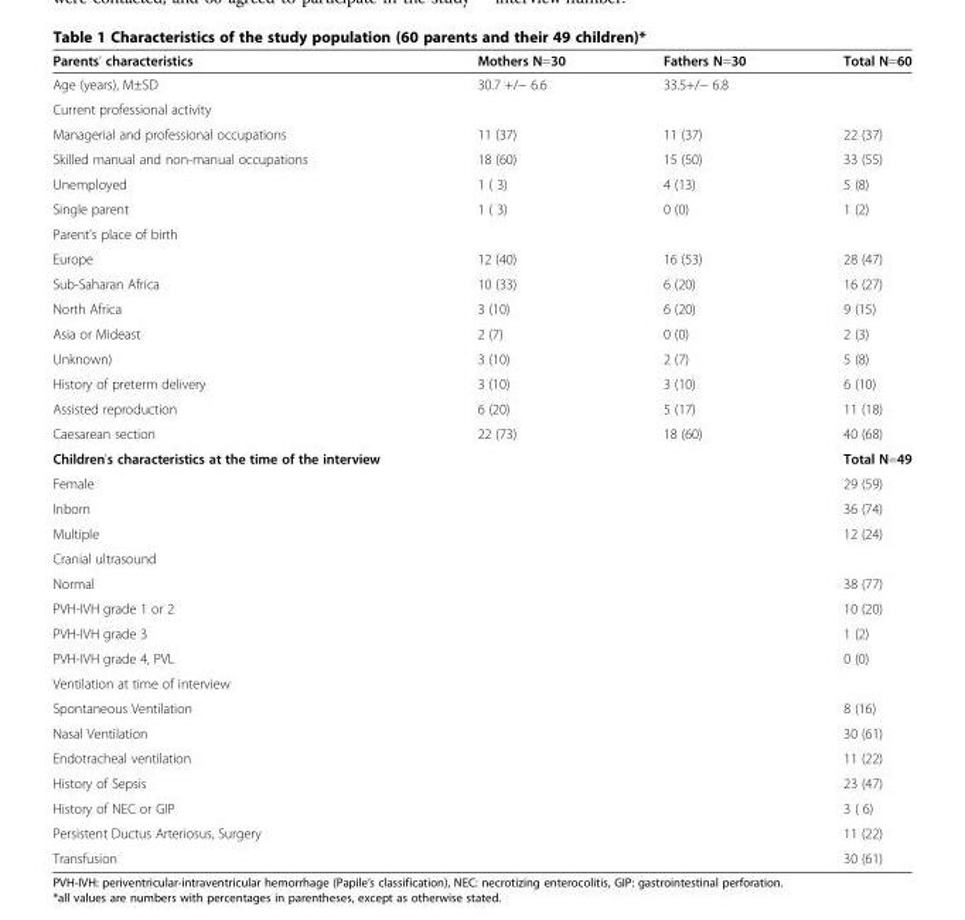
<table><thead><tr><td>Parents&#x27; characteristics</td><td>Mothers N=30</td><td>Fathers N=30</td><td>Total N=60</td></tr></thead><tbody><tr><td>Age (years), M±SD</td><td>30.7 +/− 6.6</td><td>33.5+/− 6.8</td><td></td></tr><tr><td colspan="4">Current professional activity</td></tr><tr><td>Managerial and professional occupations</td><td>11 (37)</td><td>11 (37)</td><td>22 (37)</td></tr><tr><td>Skilled manual and non-manual occupations</td><td>18 (60)</td><td>15 (50)</td><td>33 (55)</td></tr><tr><td>Unemployed</td><td>1 ( 3)</td><td>4 (13)</td><td>5 (8)</td></tr><tr><td>Single parent</td><td>1 ( 3)</td><td>0 (0)</td><td>1 (2)</td></tr><tr><td colspan="4">Parent’s place of birth</td></tr><tr><td>Europe</td><td>12 (40)</td><td>16 (53)</td><td>28 (47)</td></tr><tr><td>Sub-Saharan Africa</td><td>10 (33)</td><td>6 (20)</td><td>16 (27)</td></tr><tr><td>North Africa</td><td>3 (10)</td><td>6 (20)</td><td>9 (15)</td></tr><tr><td>Asia or Mideast</td><td>2 (7)</td><td>0 (0)</td><td>2 (3)</td></tr><tr><td>Unknown)</td><td>3 (10)</td><td>2 (7)</td><td>5 (8)</td></tr><tr><td>History of preterm delivery</td><td>3 (10)</td><td>3 (10)</td><td>6 (10)</td></tr><tr><td>Assisted reproduction</td><td>6 (20)</td><td>5 (17)</td><td>11 (18)</td></tr><tr><td>Caesarean section</td><td>22 (73)</td><td>18 (60)</td><td>40 (68)</td></tr><tr><td>Children&#x27;s characteristics at the time of the interview</td><td></td><td></td><td>Total N=49</td></tr><tr><td>Female</td><td></td><td></td><td>29 (59)</td></tr><tr><td>Inborn</td><td></td><td></td><td>36 (74)</td></tr><tr><td>Multiple</td><td></td><td></td><td>12 (24)</td></tr><tr><td colspan="4">Cranial ultrasound</td></tr><tr><td>Normal</td><td></td><td></td><td>38 (77)</td></tr><tr><td>PVH-IVH grade 1 or 2</td><td></td><td></td><td>10 (20)</td></tr><tr><td>PVH-IVH grade 3</td><td></td><td></td><td>1 (2)</td></tr><tr><td>PVH-IVH grade 4, PVL</td><td></td><td></td><td>0 (0)</td></tr><tr><td colspan="4">Ventilation at time of interview</td></tr><tr><td>Spontaneous Ventilation</td><td></td><td></td><td>8 (16)</td></tr><tr><td>Nasal Ventilation</td><td></td><td></td><td>30 (61)</td></tr><tr><td>Endotracheal ventilation</td><td></td><td></td><td>11 (22)</td></tr><tr><td>History of Sepsis</td><td></td><td></td><td>23 (47)</td></tr><tr><td>History of NEC or GIP</td><td></td><td></td><td>3 ( 6)</td></tr><tr><td>Persistent Ductus Arteriosus, Surgery</td><td></td><td></td><td>11 (22)</td></tr><tr><td>Transfusion</td><td></td><td></td><td>30 (61)</td></tr></tbody></table>